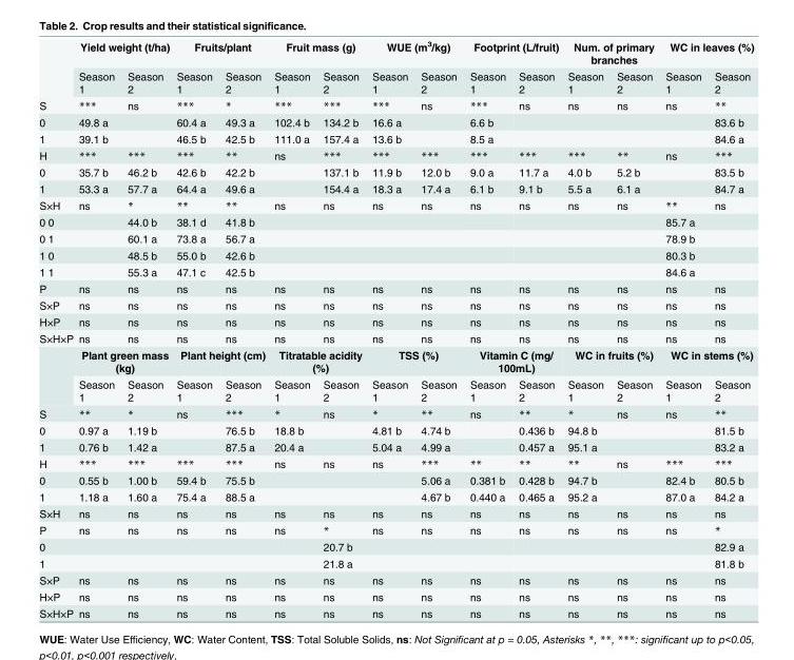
<table><thead><tr><td rowspan="2"></td><td colspan="2">Yield weight (t/ha)</td><td colspan="2">Fruits/plant</td><td colspan="2">Fruit mass (g)</td><td colspan="2">WUE (m<sup>3</sup>/kg)</td><td colspan="2">Footprint (L/fruit)</td><td colspan="2">Num. of primary branches</td><td colspan="2">WC in leaves (%)</td></tr><tr><td>Season 1</td><td>Season 2</td><td>Season 1</td><td>Season 2</td><td>Season 1</td><td>Season 2</td><td>Season 1</td><td>Season 2</td><td>Season 1</td><td>Season 2</td><td>Season 1</td><td>Season 2</td><td>Season 1</td><td>Season 2</td></tr></thead><tbody><tr><td>S</td><td>***</td><td>ns</td><td>***</td><td>*</td><td>***</td><td>***</td><td>***</td><td>ns</td><td>***</td><td>ns</td><td>ns</td><td>ns</td><td>ns</td><td>**</td></tr><tr><td>0</td><td>49.8 a</td><td></td><td>60.4 a</td><td>49.3 a</td><td>102.4 b</td><td>134.2 b</td><td>16.6 a</td><td></td><td>6.6 b</td><td></td><td></td><td></td><td></td><td>83.6 b</td></tr><tr><td>1</td><td>39.1 b</td><td></td><td>46.5 b</td><td>42.5 b</td><td>111.0 a</td><td>157.4 a</td><td>13.6 b</td><td></td><td>8.5 a</td><td></td><td></td><td></td><td></td><td>84.6 a</td></tr><tr><td>H</td><td>***</td><td>***</td><td>***</td><td>**</td><td>ns</td><td>***</td><td>***</td><td>***</td><td>***</td><td>***</td><td>***</td><td>**</td><td>ns</td><td>***</td></tr><tr><td>0</td><td>35.7 b</td><td>46.2 b</td><td>42.6 b</td><td>42.2 b</td><td></td><td>137.1 b</td><td>11.9 b</td><td>12.0 b</td><td>9.0 a</td><td>11.7 a</td><td>4.0 b</td><td>5.2 b</td><td></td><td>83.5 b</td></tr><tr><td>1</td><td>53.3 a</td><td>57.7 a</td><td>64.4 a</td><td>49.6 a</td><td></td><td>154.4 a</td><td>18.3 a</td><td>17.4 a</td><td>6.1 b</td><td>9.1 b</td><td>5.5 a</td><td>6.1 a</td><td></td><td>84.7 a</td></tr><tr><td>S×H</td><td>ns</td><td>*</td><td>**</td><td>**</td><td>ns</td><td>ns</td><td>ns</td><td>ns</td><td>ns</td><td>ns</td><td>ns</td><td>ns</td><td>**</td><td>ns</td></tr><tr><td>0 0</td><td></td><td>44.0 b</td><td>38.1 d</td><td>41.8 b</td><td></td><td></td><td></td><td></td><td></td><td></td><td></td><td></td><td>85.7 a</td><td></td></tr><tr><td>0 1</td><td></td><td>60.1 a</td><td>73.8 a</td><td>56.7 a</td><td></td><td></td><td></td><td></td><td></td><td></td><td></td><td></td><td>78.9 b</td><td></td></tr><tr><td>1 0</td><td></td><td>48.5 b</td><td>55.0 b</td><td>42.6 b</td><td></td><td></td><td></td><td></td><td></td><td></td><td></td><td></td><td>80.3 b</td><td></td></tr><tr><td>1 1</td><td></td><td>55.3 a</td><td>47.1 c</td><td>42.5 b</td><td></td><td></td><td></td><td></td><td></td><td></td><td></td><td></td><td>84.6 a</td><td></td></tr><tr><td>P</td><td>ns</td><td>ns</td><td>ns</td><td>ns</td><td>ns</td><td>ns</td><td>ns</td><td>ns</td><td>ns</td><td>ns</td><td>ns</td><td>ns</td><td>ns</td><td>ns</td></tr><tr><td>S×P</td><td>ns</td><td>ns</td><td>ns</td><td>ns</td><td>ns</td><td>ns</td><td>ns</td><td>ns</td><td>ns</td><td>ns</td><td>ns</td><td>ns</td><td>ns</td><td>ns</td></tr><tr><td>H×P</td><td>ns</td><td>ns</td><td>ns</td><td>ns</td><td>ns</td><td>ns</td><td>ns</td><td>ns</td><td>ns</td><td>ns</td><td>ns</td><td>ns</td><td>ns</td><td>ns</td></tr><tr><td rowspan="3">S×H×P</td><td>ns</td><td>ns</td><td>ns</td><td>ns</td><td>ns</td><td>ns</td><td>ns</td><td>ns</td><td>ns</td><td>ns</td><td>ns</td><td>ns</td><td>ns</td><td>ns</td></tr><tr><td colspan="2">Plant green mass (kg)</td><td colspan="2">Plant height (cm)</td><td colspan="2">Titratable acidity (%)</td><td colspan="2">TSS (%)</td><td colspan="2">Vitamin C (mg/ 100mL)</td><td colspan="2">WC in fruits (%)</td><td colspan="2">WC in stems (%)</td></tr><tr><td>Season 1</td><td>Season 2</td><td>Season 1</td><td>Season 2</td><td>Season 1</td><td>Season 2</td><td>Season 1</td><td>Season 2</td><td>Season 1</td><td>Season 2</td><td>Season 1</td><td>Season 2</td><td>Season 1</td><td>Season 2</td></tr><tr><td>S</td><td>**</td><td>*</td><td>ns</td><td>***</td><td>*</td><td>ns</td><td>*</td><td>**</td><td>ns</td><td>**</td><td>*</td><td>ns</td><td>ns</td><td>**</td></tr><tr><td>0</td><td>0.97 a</td><td>1.19 b</td><td></td><td>76.5 b</td><td>18.8 b</td><td></td><td>4.81 b</td><td>4.74 b</td><td></td><td>0.436 b</td><td>94.8 b</td><td></td><td></td><td>81.5 b</td></tr><tr><td>1</td><td>0.76 b</td><td>1.42 a</td><td></td><td>87.5 a</td><td>20.4 a</td><td></td><td>5.04 a</td><td>4.99 a</td><td></td><td>0.457 a</td><td>95.1 a</td><td></td><td></td><td>83.2 a</td></tr><tr><td>H</td><td>***</td><td>***</td><td>***</td><td>***</td><td>ns</td><td>ns</td><td>ns</td><td>***</td><td>**</td><td>**</td><td>**</td><td>ns</td><td>***</td><td>***</td></tr><tr><td>0</td><td>0.55 b</td><td>1.00 b</td><td>59.4 b</td><td>75.5 b</td><td></td><td></td><td></td><td>5.06 a</td><td>0.381 b</td><td>0.428 b</td><td>94.7 b</td><td></td><td>82.4 b</td><td>80.5 b</td></tr><tr><td>1</td><td>1.18 a</td><td>1.60 a</td><td>75.4 a</td><td>88.5 a</td><td></td><td></td><td></td><td>4.67 b</td><td>0.440 a</td><td>0.465 a</td><td>95.2 a</td><td></td><td>87.0 a</td><td>84.2 a</td></tr><tr><td>S×H</td><td>ns</td><td>ns</td><td>ns</td><td>ns</td><td>ns</td><td>ns</td><td>ns</td><td>ns</td><td>ns</td><td>ns</td><td>ns</td><td>ns</td><td>ns</td><td>ns</td></tr><tr><td>P</td><td>ns</td><td>ns</td><td>ns</td><td>ns</td><td>ns</td><td>*</td><td>ns</td><td>ns</td><td>ns</td><td>ns</td><td>ns</td><td>ns</td><td>ns</td><td>*</td></tr><tr><td>0</td><td></td><td></td><td></td><td></td><td></td><td>20.7 b</td><td></td><td></td><td></td><td></td><td></td><td></td><td></td><td>82.9 a</td></tr><tr><td>1</td><td></td><td></td><td></td><td></td><td></td><td>21.8 a</td><td></td><td></td><td></td><td></td><td></td><td></td><td></td><td>81.8 b</td></tr><tr><td>S×P</td><td>ns</td><td>ns</td><td>ns</td><td>ns</td><td>ns</td><td>ns</td><td>ns</td><td>ns</td><td>ns</td><td>ns</td><td>ns</td><td>ns</td><td>ns</td><td>ns</td></tr><tr><td>H×P</td><td>ns</td><td>ns</td><td>ns</td><td>ns</td><td>ns</td><td>ns</td><td>ns</td><td>ns</td><td>ns</td><td>ns</td><td>ns</td><td>ns</td><td>ns</td><td>ns</td></tr><tr><td>S×H×P</td><td>ns</td><td>ns</td><td>ns</td><td>ns</td><td>ns</td><td>ns</td><td>ns</td><td>ns</td><td>ns</td><td>ns</td><td>ns</td><td>ns</td><td>ns</td><td>ns</td></tr></tbody></table>